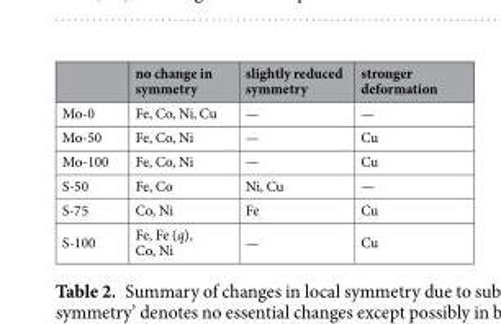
<table><thead><tr><td></td><td>no change in symmetry</td><td>slightly reduced symmetry</td><td>stronger deformation</td></tr></thead><tbody><tr><td>Mo-0</td><td>Fe, Co, Ni, Cu</td><td>—</td><td>—</td></tr><tr><td>Mo-50</td><td>Fe, Co, Ni</td><td>—</td><td>Cu</td></tr><tr><td>Mo-100</td><td>Fe, Co, Ni</td><td>—</td><td>Cu</td></tr><tr><td>S-50</td><td>Fe, Co</td><td>Ni, Cu</td><td>—</td></tr><tr><td>S-75</td><td>Co, Ni</td><td>Fe</td><td>Cu</td></tr><tr><td>S-100</td><td>Fe, Fe (q), Co, Ni</td><td>—</td><td>Cu</td></tr></tbody></table>